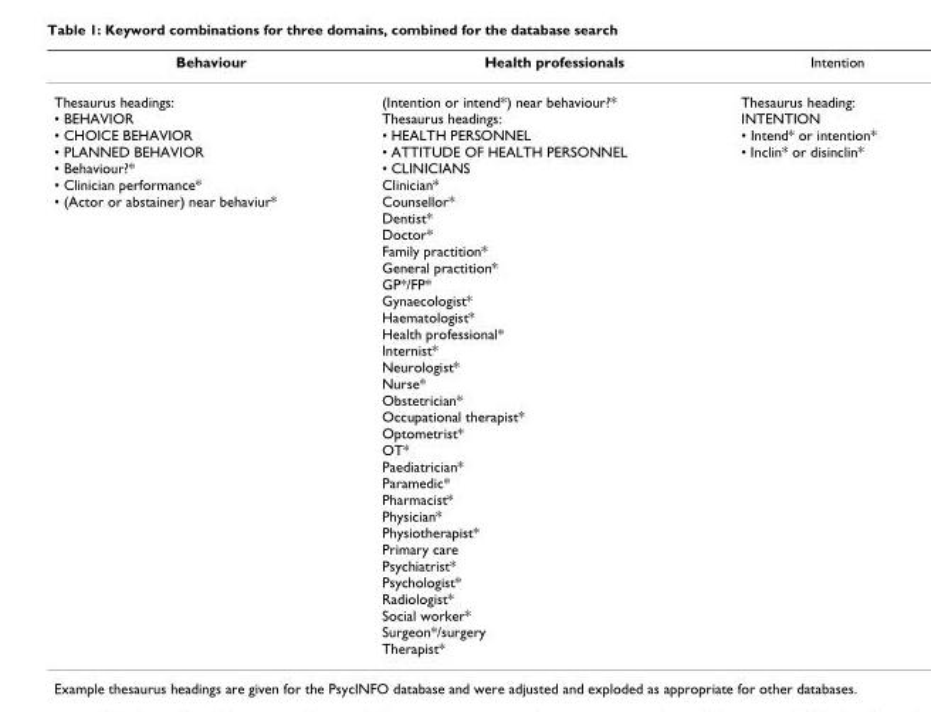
<table><thead><tr><td>Behaviour</td><td>Health professionals</td><td>Intention</td></tr></thead><tbody><tr><td>Thesaurus headings: • BEHAVIOR • CHOICE BEHAVIOR • PLANNED BEHAVIOR • Behaviour?* • Clinician performance* • (Actor or abstainer) near behaviur*</td><td>(Intention or intend*) near behaviour?* Thesaurus headings: • HEALTH PERSONNEL • ATTITUDE OF HEALTH PERSONNEL • CLINICIANS Clinician* Counsellor* Dentist* Doctor* Family practition* General practition* GP*/FP* Gynaecologist* Haematologist* Health professional* Internist* Neurologist* Nurse* Obstetrician* Occupational therapist* Optometrist* OT* Paediatrician* Paramedic* Pharmacist* Physician* Physiotherapist* Primary care Psychiatrist* Psychologist* Radiologist* Social worker* Surgeon*/surgery Therapist*</td><td>Thesaurus heading: INTENTION • Intend* or intention* • Inclin* or disinclin*</td></tr></tbody></table>